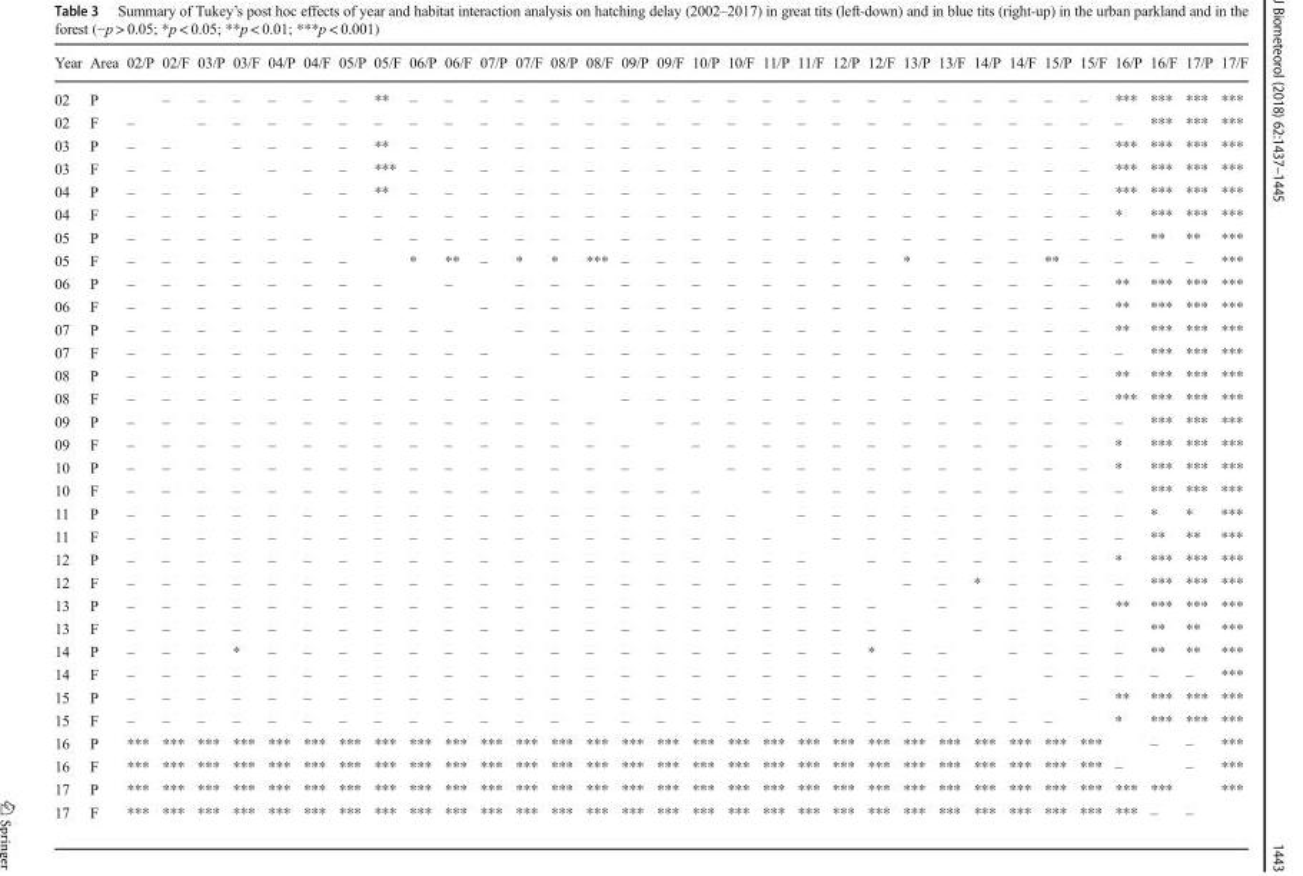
<table><thead><tr><td>Year</td><td>Area</td><td>02/P</td><td>02/F</td><td>03/P</td><td>03/F</td><td>04/P</td><td>04/F</td><td>05/P</td><td>05/F</td><td>06/P</td><td>06/F</td><td>07/P</td><td>07/F</td><td>08/P</td><td>08/F</td><td>09/P</td><td>09/F</td><td>10/P</td><td>10/F</td><td>11/P</td><td>11/F</td><td>12/P</td><td>12/F</td><td>13/P</td><td>13/F</td><td>14/P</td><td>14/F</td><td>15/P</td><td>15/F</td><td>16/P</td><td>16/F</td><td>17/P</td><td>17/F</td></tr></thead><tbody><tr><td>02</td><td>P</td><td></td><td>–</td><td>–</td><td>–</td><td>–</td><td>–</td><td>–</td><td>**</td><td>–</td><td>–</td><td>–</td><td>–</td><td>–</td><td>–</td><td>–</td><td>–</td><td>–</td><td>–</td><td>–</td><td>–</td><td>–</td><td>–</td><td>–</td><td>–</td><td>–</td><td>–</td><td>–</td><td>–</td><td>***</td><td>***</td><td>***</td><td>***</td></tr><tr><td>02</td><td>F</td><td>–</td><td></td><td>–</td><td>–</td><td>–</td><td>–</td><td>–</td><td>–</td><td>–</td><td>–</td><td>–</td><td>–</td><td>–</td><td>–</td><td>–</td><td>–</td><td>–</td><td>–</td><td>–</td><td>–</td><td>–</td><td>–</td><td>–</td><td>–</td><td>–</td><td>–</td><td>–</td><td>–</td><td>–</td><td>***</td><td>***</td><td>***</td></tr><tr><td>03</td><td>P</td><td>–</td><td>–</td><td></td><td>–</td><td>–</td><td>–</td><td>–</td><td>**</td><td>–</td><td>–</td><td>–</td><td>–</td><td>–</td><td>–</td><td>–</td><td>–</td><td>–</td><td>–</td><td>–</td><td>–</td><td>–</td><td>–</td><td>–</td><td>–</td><td>–</td><td>–</td><td>–</td><td>–</td><td>***</td><td>***</td><td>***</td><td>***</td></tr><tr><td>03</td><td>F</td><td>–</td><td>–</td><td>–</td><td></td><td>–</td><td>–</td><td>–</td><td>***</td><td>–</td><td>–</td><td>–</td><td>–</td><td>–</td><td>–</td><td>–</td><td>–</td><td>–</td><td>–</td><td>–</td><td>–</td><td>–</td><td>–</td><td>–</td><td>–</td><td>–</td><td>–</td><td>–</td><td>–</td><td>***</td><td>***</td><td>***</td><td>***</td></tr><tr><td>04</td><td>P</td><td>–</td><td>–</td><td>–</td><td>–</td><td></td><td>–</td><td>–</td><td>**</td><td>–</td><td>–</td><td>–</td><td>–</td><td>–</td><td>–</td><td>–</td><td>–</td><td>–</td><td>–</td><td>–</td><td>–</td><td>–</td><td>–</td><td>–</td><td>–</td><td>–</td><td>–</td><td>–</td><td>–</td><td>***</td><td>***</td><td>***</td><td>***</td></tr><tr><td>04</td><td>F</td><td>–</td><td>–</td><td>–</td><td>–</td><td>–</td><td></td><td>–</td><td>–</td><td>–</td><td>–</td><td>–</td><td>–</td><td>–</td><td>–</td><td>–</td><td>–</td><td>–</td><td>–</td><td>–</td><td>–</td><td>–</td><td>–</td><td>–</td><td>–</td><td>–</td><td>–</td><td>–</td><td>–</td><td>*</td><td>***</td><td>***</td><td>***</td></tr><tr><td>05</td><td>P</td><td>–</td><td>–</td><td>–</td><td>–</td><td>–</td><td>–</td><td></td><td>–</td><td>–</td><td>–</td><td>–</td><td>–</td><td>–</td><td>–</td><td>–</td><td>–</td><td>–</td><td>–</td><td>–</td><td>–</td><td>–</td><td>–</td><td>–</td><td>–</td><td>–</td><td>–</td><td>–</td><td>–</td><td>–</td><td>**</td><td>**</td><td>***</td></tr><tr><td>05</td><td>F</td><td>–</td><td>–</td><td>–</td><td>–</td><td>–</td><td>–</td><td>–</td><td></td><td>*</td><td>**</td><td>–</td><td>*</td><td>*</td><td>***</td><td>–</td><td>–</td><td>–</td><td>–</td><td>–</td><td>–</td><td>–</td><td>–</td><td>*</td><td>–</td><td>–</td><td>–</td><td>**</td><td>–</td><td>–</td><td>–</td><td>–</td><td>***</td></tr><tr><td>06</td><td>P</td><td>–</td><td>–</td><td>–</td><td>–</td><td>–</td><td>–</td><td>–</td><td>–</td><td></td><td>–</td><td></td><td>–</td><td>–</td><td>–</td><td>–</td><td>–</td><td>–</td><td>–</td><td>–</td><td>–</td><td>–</td><td>–</td><td>–</td><td>–</td><td>–</td><td>–</td><td>–</td><td>–</td><td>**</td><td>***</td><td>***</td><td>***</td></tr><tr><td>06</td><td>F</td><td>–</td><td>–</td><td>–</td><td>–</td><td>–</td><td>–</td><td>–</td><td>–</td><td>–</td><td></td><td>–</td><td>–</td><td>–</td><td>–</td><td>–</td><td>–</td><td>–</td><td>–</td><td>–</td><td>–</td><td>–</td><td>–</td><td>–</td><td>–</td><td>–</td><td>–</td><td>–</td><td>–</td><td>**</td><td>***</td><td>***</td><td>***</td></tr><tr><td>07</td><td>P</td><td>–</td><td>–</td><td>–</td><td>–</td><td>–</td><td>–</td><td>–</td><td>–</td><td>–</td><td>–</td><td></td><td>–</td><td>–</td><td>–</td><td>–</td><td>–</td><td>–</td><td>–</td><td>–</td><td>–</td><td>–</td><td>–</td><td>–</td><td>–</td><td>–</td><td>–</td><td>–</td><td>–</td><td>**</td><td>***</td><td>***</td><td>***</td></tr><tr><td>07</td><td>F</td><td>–</td><td>–</td><td>–</td><td>–</td><td>–</td><td>–</td><td>–</td><td>–</td><td>–</td><td>–</td><td>–</td><td></td><td>–</td><td>–</td><td>–</td><td>–</td><td>–</td><td>–</td><td>–</td><td>–</td><td>–</td><td>–</td><td>–</td><td>–</td><td>–</td><td>–</td><td>–</td><td>–</td><td>–</td><td>***</td><td>***</td><td>***</td></tr><tr><td>08</td><td>P</td><td>–</td><td>–</td><td>–</td><td>–</td><td>–</td><td>–</td><td>–</td><td>–</td><td>–</td><td>–</td><td>–</td><td>–</td><td></td><td>–</td><td>–</td><td>–</td><td>–</td><td>–</td><td>–</td><td>–</td><td>–</td><td>–</td><td>–</td><td>–</td><td>–</td><td>–</td><td>–</td><td>–</td><td>**</td><td>***</td><td>***</td><td>***</td></tr><tr><td>08</td><td>F</td><td>–</td><td>–</td><td>–</td><td>–</td><td>–</td><td>–</td><td>–</td><td>–</td><td>–</td><td>–</td><td>–</td><td>–</td><td>–</td><td></td><td>–</td><td>–</td><td>–</td><td>–</td><td>–</td><td>–</td><td>–</td><td>–</td><td>–</td><td>–</td><td>–</td><td>–</td><td>–</td><td>–</td><td>***</td><td>***</td><td>***</td><td>***</td></tr><tr><td>09</td><td>P</td><td>–</td><td>–</td><td>–</td><td>–</td><td>–</td><td>–</td><td>–</td><td>–</td><td>–</td><td>–</td><td>–</td><td>–</td><td>–</td><td>–</td><td></td><td>–</td><td>–</td><td>–</td><td>–</td><td>–</td><td>–</td><td>–</td><td>–</td><td>–</td><td>–</td><td>–</td><td>–</td><td>–</td><td>–</td><td>***</td><td>***</td><td>***</td></tr><tr><td>09</td><td>F</td><td>–</td><td>–</td><td>–</td><td>–</td><td>–</td><td>–</td><td>–</td><td>–</td><td>–</td><td>–</td><td>–</td><td>–</td><td>–</td><td>–</td><td>–</td><td></td><td>–</td><td>–</td><td>–</td><td>–</td><td>–</td><td>–</td><td>–</td><td>–</td><td>–</td><td>–</td><td>–</td><td>–</td><td>*</td><td>***</td><td>***</td><td>***</td></tr><tr><td>10</td><td>P</td><td>–</td><td>–</td><td>–</td><td>–</td><td>–</td><td>–</td><td>–</td><td>–</td><td>–</td><td>–</td><td>–</td><td>–</td><td>–</td><td>–</td><td>–</td><td>–</td><td></td><td>–</td><td>–</td><td>–</td><td>–</td><td>–</td><td>–</td><td>–</td><td>–</td><td>–</td><td>–</td><td>–</td><td>*</td><td>***</td><td>***</td><td>***</td></tr><tr><td>10</td><td>F</td><td>–</td><td>–</td><td>–</td><td>–</td><td>–</td><td>–</td><td>–</td><td>–</td><td>–</td><td>–</td><td>–</td><td>–</td><td>–</td><td>–</td><td>–</td><td>–</td><td>–</td><td></td><td>–</td><td>–</td><td>–</td><td>–</td><td>–</td><td>–</td><td>–</td><td>–</td><td>–</td><td>–</td><td>–</td><td>***</td><td>***</td><td>***</td></tr><tr><td>11</td><td>P</td><td>–</td><td>–</td><td>–</td><td>–</td><td>–</td><td>–</td><td>–</td><td>–</td><td>–</td><td>–</td><td>–</td><td>–</td><td>–</td><td>–</td><td>–</td><td>–</td><td>–</td><td>–</td><td></td><td>–</td><td>–</td><td>–</td><td>–</td><td>–</td><td>–</td><td>–</td><td>–</td><td>–</td><td>–</td><td>*</td><td>*</td><td>***</td></tr><tr><td>11</td><td>F</td><td>–</td><td>–</td><td>–</td><td>–</td><td>–</td><td>–</td><td>–</td><td>–</td><td>–</td><td>–</td><td>–</td><td>–</td><td>–</td><td>–</td><td>–</td><td>–</td><td>–</td><td>–</td><td>–</td><td></td><td>–</td><td>–</td><td>–</td><td>–</td><td>–</td><td>–</td><td>–</td><td>–</td><td>–</td><td>**</td><td>**</td><td>***</td></tr><tr><td>12</td><td>P</td><td>–</td><td>–</td><td>–</td><td>–</td><td>–</td><td>–</td><td>–</td><td>–</td><td>–</td><td>–</td><td>–</td><td>–</td><td>–</td><td>–</td><td>–</td><td>–</td><td>–</td><td>–</td><td>–</td><td>–</td><td></td><td>–</td><td>–</td><td>–</td><td>–</td><td>–</td><td>–</td><td>–</td><td>*</td><td>***</td><td>***</td><td>***</td></tr><tr><td>12</td><td>F</td><td>–</td><td>–</td><td>–</td><td>–</td><td>–</td><td>–</td><td>–</td><td>–</td><td>–</td><td>–</td><td>–</td><td>–</td><td>–</td><td>–</td><td>–</td><td>–</td><td>–</td><td>–</td><td>–</td><td>–</td><td>–</td><td></td><td>–</td><td>–</td><td>*</td><td>–</td><td>–</td><td>–</td><td>–</td><td>***</td><td>***</td><td>***</td></tr><tr><td>13</td><td>P</td><td>–</td><td>–</td><td>–</td><td>–</td><td>–</td><td>–</td><td>–</td><td>–</td><td>–</td><td>–</td><td>–</td><td>–</td><td>–</td><td>–</td><td>–</td><td>–</td><td>–</td><td>–</td><td>–</td><td>–</td><td>–</td><td>–</td><td></td><td>–</td><td>–</td><td>–</td><td>–</td><td>–</td><td>**</td><td>***</td><td>***</td><td>***</td></tr><tr><td>13</td><td>F</td><td>–</td><td>–</td><td>–</td><td>–</td><td>–</td><td>–</td><td>–</td><td>–</td><td>–</td><td>–</td><td>–</td><td>–</td><td>–</td><td>–</td><td>–</td><td>–</td><td>–</td><td>–</td><td>–</td><td>–</td><td>–</td><td>–</td><td>–</td><td></td><td>–</td><td>–</td><td>–</td><td>–</td><td>–</td><td>**</td><td>**</td><td>***</td></tr><tr><td>14</td><td>P</td><td>–</td><td>–</td><td>–</td><td>*</td><td>–</td><td>–</td><td>–</td><td>–</td><td>–</td><td>–</td><td>–</td><td>–</td><td>–</td><td>–</td><td>–</td><td>–</td><td>–</td><td>–</td><td>–</td><td>–</td><td>–</td><td>*</td><td>–</td><td>–</td><td></td><td>–</td><td>–</td><td>–</td><td>–</td><td>**</td><td>**</td><td>***</td></tr><tr><td>14</td><td>F</td><td>–</td><td>–</td><td>–</td><td>–</td><td>–</td><td>–</td><td>–</td><td>–</td><td>–</td><td>–</td><td>–</td><td>–</td><td>–</td><td>–</td><td>–</td><td>–</td><td>–</td><td>–</td><td>–</td><td>–</td><td>–</td><td>–</td><td>–</td><td>–</td><td>–</td><td></td><td>–</td><td>–</td><td>–</td><td>–</td><td>–</td><td>***</td></tr><tr><td>15</td><td>P</td><td>–</td><td>–</td><td>–</td><td>–</td><td>–</td><td>–</td><td>–</td><td>–</td><td>–</td><td>–</td><td>–</td><td>–</td><td>–</td><td>–</td><td>–</td><td>–</td><td>–</td><td>–</td><td>–</td><td>–</td><td>–</td><td>–</td><td>–</td><td>–</td><td>–</td><td>–</td><td></td><td>–</td><td>**</td><td>***</td><td>***</td><td>***</td></tr><tr><td>15</td><td>F</td><td>–</td><td>–</td><td>–</td><td>–</td><td>–</td><td>–</td><td>–</td><td>–</td><td>–</td><td>–</td><td>–</td><td>–</td><td>–</td><td>–</td><td>–</td><td>–</td><td>–</td><td>–</td><td>–</td><td>–</td><td>–</td><td>–</td><td>–</td><td>–</td><td>–</td><td>–</td><td>–</td><td></td><td>*</td><td>***</td><td>***</td><td>***</td></tr><tr><td>16</td><td>P</td><td>***</td><td>***</td><td>***</td><td>***</td><td>***</td><td>***</td><td>***</td><td>***</td><td>***</td><td>***</td><td>***</td><td>***</td><td>***</td><td>***</td><td>***</td><td>***</td><td>***</td><td>***</td><td>***</td><td>***</td><td>***</td><td>***</td><td>***</td><td>***</td><td>***</td><td>***</td><td>***</td><td>***</td><td></td><td>–</td><td>–</td><td>***</td></tr><tr><td>16</td><td>F</td><td>***</td><td>***</td><td>***</td><td>***</td><td>***</td><td>***</td><td>***</td><td>***</td><td>***</td><td>***</td><td>***</td><td>***</td><td>***</td><td>***</td><td>***</td><td>***</td><td>***</td><td>***</td><td>***</td><td>***</td><td>***</td><td>***</td><td>***</td><td>***</td><td>***</td><td>***</td><td>***</td><td>***</td><td>–</td><td></td><td>–</td><td>***</td></tr><tr><td>17</td><td>P</td><td>***</td><td>***</td><td>***</td><td>***</td><td>***</td><td>***</td><td>***</td><td>***</td><td>***</td><td>***</td><td>***</td><td>***</td><td>***</td><td>***</td><td>***</td><td>***</td><td>***</td><td>***</td><td>***</td><td>***</td><td>***</td><td>***</td><td>***</td><td>***</td><td>***</td><td>***</td><td>***</td><td>***</td><td>***</td><td>***</td><td></td><td>***</td></tr><tr><td>17</td><td>F</td><td>***</td><td>***</td><td>***</td><td>***</td><td>***</td><td>***</td><td>***</td><td>***</td><td>***</td><td>***</td><td>***</td><td>***</td><td>***</td><td>***</td><td>***</td><td>***</td><td>***</td><td>***</td><td>***</td><td>***</td><td>***</td><td>***</td><td>***</td><td>***</td><td>***</td><td>***</td><td>***</td><td>***</td><td>***</td><td>–</td><td>–</td><td></td></tr></tbody></table>